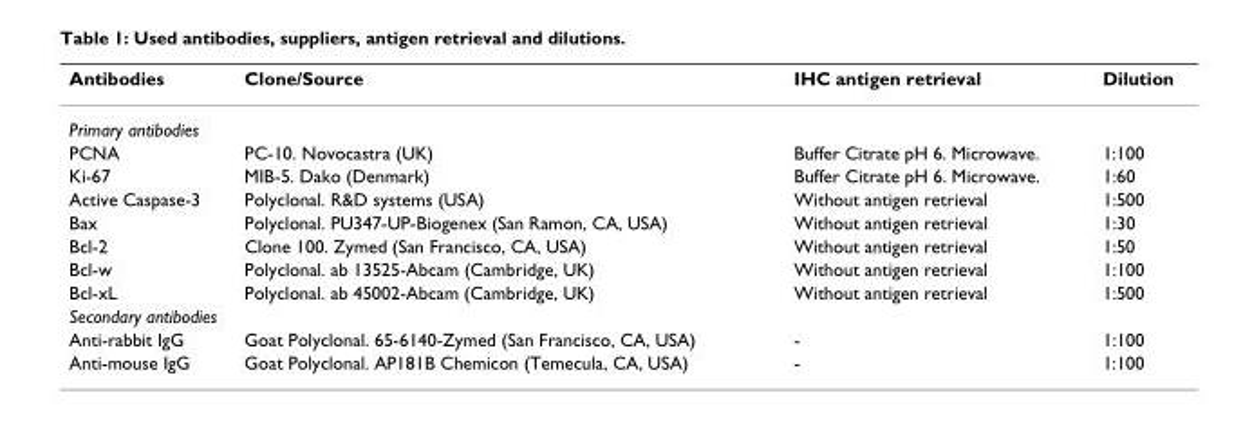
<table><thead><tr><td>Antibodies</td><td>Clone/Source</td><td>IHC antigen retrieval</td><td>Dilution</td></tr></thead><tbody><tr><td colspan="4">Primary antibodies</td></tr><tr><td>PCNA</td><td>PC-10. Novocastra (UK)</td><td>Buffer Citrate pH 6. Microwave.</td><td>1:100</td></tr><tr><td>Ki-67</td><td>MIB-5. Dako (Denmark)</td><td>Buffer Citrate pH 6. Microwave.</td><td>1:60</td></tr><tr><td>Active Caspase-3</td><td>Polyclonal. R&amp;D systems (USA)</td><td>Without antigen retrieval</td><td>1:500</td></tr><tr><td>Bax</td><td>Polyclonal. PU347-UP-Biogenex (San Ramon, CA, USA)</td><td>Without antigen retrieval</td><td>1:30</td></tr><tr><td>Bcl-2</td><td>Clone 100. Zymed (San Francisco, CA, USA)</td><td>Without antigen retrieval</td><td>1:50</td></tr><tr><td>Bcl-w</td><td>Polyclonal. ab 13525-Abcam (Cambridge, UK)</td><td>Without antigen retrieval</td><td>1:100</td></tr><tr><td>Bcl-xL</td><td>Polyclonal. ab 45002-Abcam (Cambridge, UK)</td><td>Without antigen retrieval</td><td>1:500</td></tr><tr><td colspan="4">Secondary antibodies</td></tr><tr><td>Anti-rabbit IgG</td><td>Goat Polyclonal. 65-6140-Zymed (San Francisco, CA, USA)</td><td>-</td><td>1:100</td></tr><tr><td>Anti-mouse IgG</td><td>Goat Polyclonal. AP181B Chemicon (Temecula, CA, USA)</td><td>-</td><td>1:100</td></tr></tbody></table>